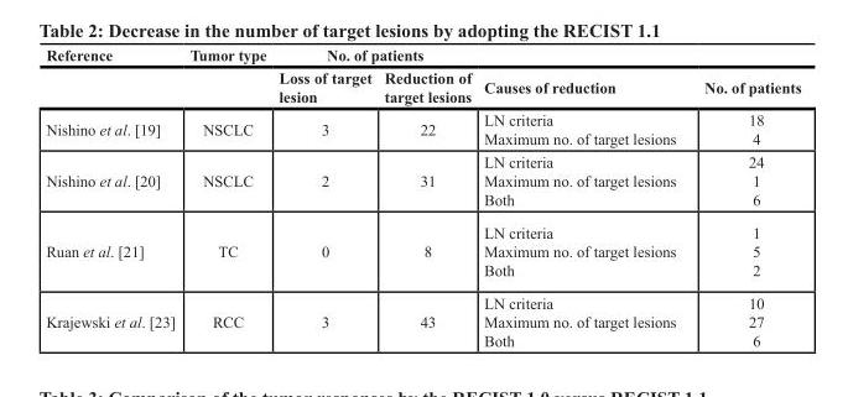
<table><thead><tr><td rowspan="2">Reference</td><td rowspan="2">Tumor type</td><td colspan="2">No. of patients</td><td rowspan="2">Causes of reduction</td><td rowspan="2">No. of patients</td></tr><tr><td>Loss of target lesion</td><td>Reduction of target lesions</td></tr></thead><tbody><tr><td>Nishino et al. [19]</td><td>NSCLC</td><td>3</td><td>22</td><td>LN criteria Maximum no. of target lesions</td><td>18 4</td></tr><tr><td>Nishino et al. [20]</td><td>NSCLC</td><td>2</td><td>31</td><td>LN criteria Maximum no. of target lesions Both</td><td>24 1 6</td></tr><tr><td>Ruan et al. [21]</td><td>TC</td><td>0</td><td>8</td><td>LN criteria Maximum no. of target lesions Both</td><td>1 5 2</td></tr><tr><td>Krajewski et al. [23]</td><td>RCC</td><td>3</td><td>43</td><td>LN criteria Maximum no. of target lesions Both</td><td>10 27 6</td></tr></tbody></table>